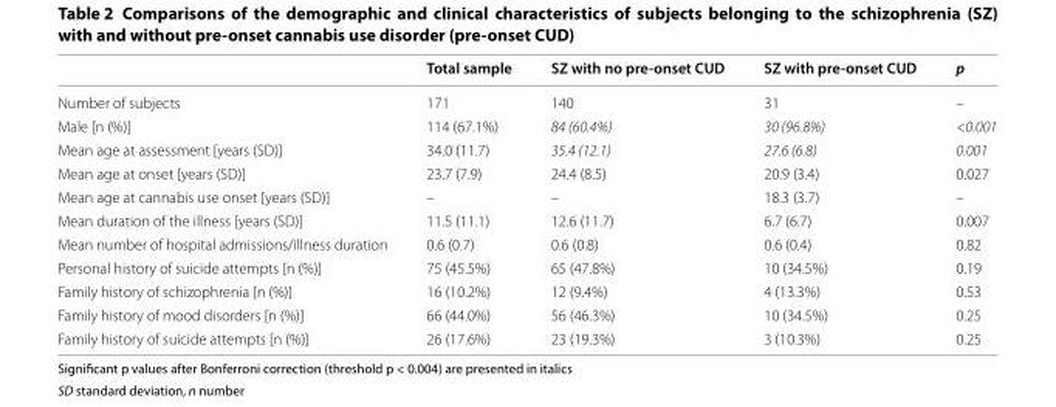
<table><thead><tr><td></td><td>Total sample</td><td>SZ with no pre‑onset CUD</td><td>SZ with pre‑onset CUD</td><td>p</td></tr></thead><tbody><tr><td>Number of subjects</td><td>171</td><td>140</td><td>31</td><td>–</td></tr><tr><td>Male [n (%)]</td><td>114 (67.1%)</td><td>84 (60.4%)</td><td>30 (96.8%)</td><td>&lt;0.001</td></tr><tr><td>Mean age at assessment [years (SD)]</td><td>34.0 (11.7)</td><td>35.4 (12.1)</td><td>27.6 (6.8)</td><td>0.001</td></tr><tr><td>Mean age at onset [years (SD)]</td><td>23.7 (7.9)</td><td>24.4 (8.5)</td><td>20.9 (3.4)</td><td>0.027</td></tr><tr><td>Mean age at cannabis use onset [years (SD)]</td><td>–</td><td>–</td><td>18.3 (3.7)</td><td>–</td></tr><tr><td>Mean duration of the illness [years (SD)]</td><td>11.5 (11.1)</td><td>12.6 (11.7)</td><td>6.7 (6.7)</td><td>0.007</td></tr><tr><td>Mean number of hospital admissions/illness duration</td><td>0.6 (0.7)</td><td>0.6 (0.8)</td><td>0.6 (0.4)</td><td>0.82</td></tr><tr><td>Personal history of suicide attempts [n (%)]</td><td>75 (45.5%)</td><td>65 (47.8%)</td><td>10 (34.5%)</td><td>0.19</td></tr><tr><td>Family history of schizophrenia [n (%)]</td><td>16 (10.2%)</td><td>12 (9.4%)</td><td>4 (13.3%)</td><td>0.53</td></tr><tr><td>Family history of mood disorders [n (%)]</td><td>66 (44.0%)</td><td>56 (46.3%)</td><td>10 (34.5%)</td><td>0.25</td></tr><tr><td>Family history of suicide attempts [n (%)]</td><td>26 (17.6%)</td><td>23 (19.3%)</td><td>3 (10.3%)</td><td>0.25</td></tr></tbody></table>